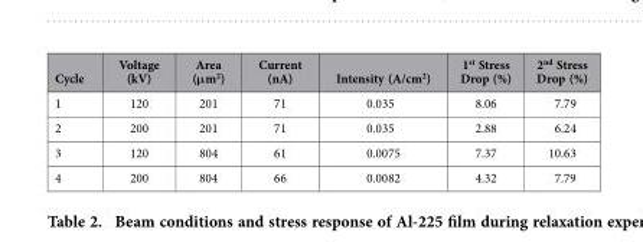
<table><thead><tr><td>Cycle</td><td>Voltage (kV)</td><td>Area (μ m<sup>2</sup>)</td><td>Current (nA)</td><td>Intensity (A/cm<sup>2</sup>)</td><td>1<sup>st</sup> Stress Drop (%)</td><td>2<sup>nd</sup> Stress Drop (%)</td></tr></thead><tbody><tr><td>1</td><td>120</td><td>201</td><td>71</td><td>0.035</td><td>8.06</td><td>7.79</td></tr><tr><td>2</td><td>200</td><td>201</td><td>71</td><td>0.035</td><td>2.88</td><td>6.24</td></tr><tr><td>3</td><td>120</td><td>804</td><td>61</td><td>0.0075</td><td>7.37</td><td>10.63</td></tr><tr><td>4</td><td>200</td><td>804</td><td>66</td><td>0.0082</td><td>4.32</td><td>7.79</td></tr></tbody></table>